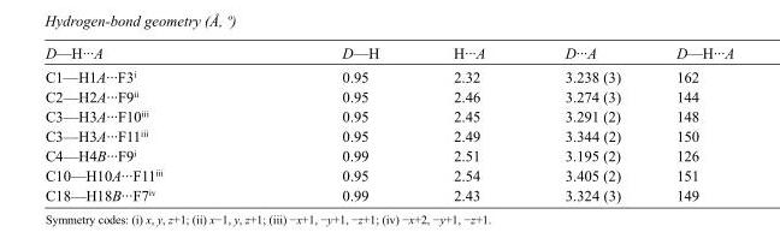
<table><tbody><tr><td>D—H···A</td><td>D—H</td><td>H···A</td><td>D···A</td><td>D—H···A</td></tr><tr><td>C1—H1A···F3<sup>i</sup></td><td>0.95</td><td>2.32</td><td>3.238 (3)</td><td>162</td></tr><tr><td>C2—H2A···F9<sup>ii</sup></td><td>0.95</td><td>2.46</td><td>3.274 (3)</td><td>144</td></tr><tr><td>C3—H3A···F10<sup>iii</sup></td><td>0.95</td><td>2.45</td><td>3.291 (2)</td><td>148</td></tr><tr><td>C3—H3A···F11<sup>iii</sup></td><td>0.95</td><td>2.49</td><td>3.344 (2)</td><td>150</td></tr><tr><td>C4—H4B···F9<sup>i</sup></td><td>0.99</td><td>2.51</td><td>3.195 (2)</td><td>126</td></tr><tr><td>C10—H10A···F11<sup>iii</sup></td><td>0.95</td><td>2.54</td><td>3.405 (2)</td><td>151</td></tr><tr><td>C18—H18B···F7<sup>iv</sup></td><td>0.99</td><td>2.43</td><td>3.324 (3)</td><td>149</td></tr></tbody></table>